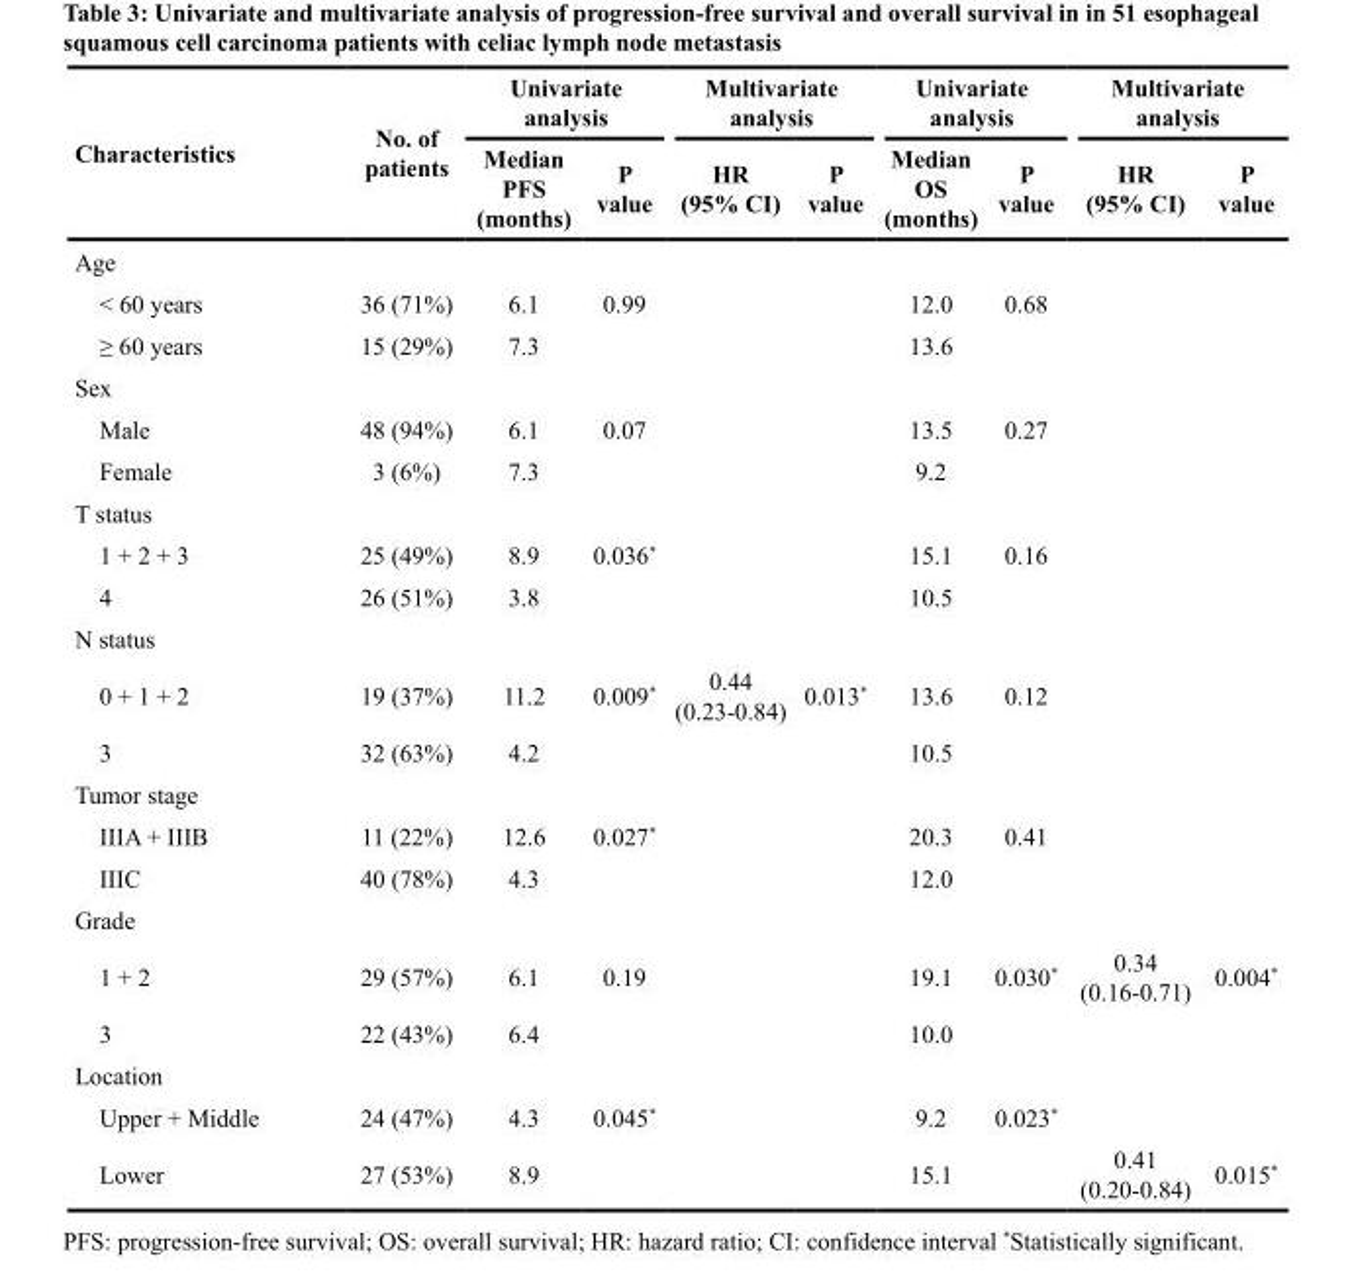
<table><thead><tr><td rowspan="2">Characteristics</td><td rowspan="2">No. of patients</td><td colspan="2">Univariate analysis</td><td colspan="2">Multivariate analysis</td><td colspan="2">Univariate analysis</td><td colspan="2">Multivariate analysis</td></tr><tr><td>Median PFS (months)</td><td>P value</td><td>HR (95% CI)</td><td>P value</td><td>Median OS (months)</td><td>P value</td><td>HR (95% CI)</td><td>P value</td></tr></thead><tbody><tr><td colspan="10">Age</td></tr><tr><td>&lt; 60 years</td><td>36 (71%)</td><td>6.1</td><td>0.99</td><td></td><td></td><td>12.0</td><td>0.68</td><td></td><td></td></tr><tr><td>≥ 60 years</td><td>15 (29%)</td><td>7.3</td><td></td><td></td><td></td><td>13.6</td><td></td><td></td><td></td></tr><tr><td colspan="10">Sex</td></tr><tr><td>Male</td><td>48 (94%)</td><td>6.1</td><td>0.07</td><td></td><td></td><td>13.5</td><td>0.27</td><td></td><td></td></tr><tr><td>Female</td><td>3 (6%)</td><td>7.3</td><td></td><td></td><td></td><td>9.2</td><td></td><td></td><td></td></tr><tr><td colspan="10">T status</td></tr><tr><td>1 + 2 + 3</td><td>25 (49%)</td><td>8.9</td><td>0.036*</td><td></td><td></td><td>15.1</td><td>0.16</td><td></td><td></td></tr><tr><td>4</td><td>26 (51%)</td><td>3.8</td><td></td><td></td><td></td><td>10.5</td><td></td><td></td><td></td></tr><tr><td colspan="10">N status</td></tr><tr><td>0 + 1 + 2</td><td>19 (37%)</td><td>11.2</td><td>0.009*</td><td>0.44 (0.23-0.84)</td><td>0.013*</td><td>13.6</td><td>0.12</td><td></td><td></td></tr><tr><td>3</td><td>32 (63%)</td><td>4.2</td><td></td><td></td><td></td><td>10.5</td><td></td><td></td><td></td></tr><tr><td colspan="10">Tumor stage</td></tr><tr><td>IIIA + IIIB</td><td>11 (22%)</td><td>12.6</td><td>0.027*</td><td></td><td></td><td>20.3</td><td>0.41</td><td></td><td></td></tr><tr><td>IIIC</td><td>40 (78%)</td><td>4.3</td><td></td><td></td><td></td><td>12.0</td><td></td><td></td><td></td></tr><tr><td colspan="10">Grade</td></tr><tr><td>1 + 2</td><td>29 (57%)</td><td>6.1</td><td>0.19</td><td></td><td></td><td>19.1</td><td>0.030*</td><td>0.34 (0.16-0.71)</td><td>0.004*</td></tr><tr><td>3</td><td>22 (43%)</td><td>6.4</td><td></td><td></td><td></td><td>10.0</td><td></td><td></td><td></td></tr><tr><td colspan="10">Location</td></tr><tr><td>Upper + Middle</td><td>24 (47%)</td><td>4.3</td><td>0.045*</td><td></td><td></td><td>9.2</td><td>0.023*</td><td></td><td></td></tr><tr><td>Lower</td><td>27 (53%)</td><td>8.9</td><td></td><td></td><td></td><td>15.1</td><td></td><td>0.41 (0.20-0.84)</td><td>0.015*</td></tr></tbody></table>